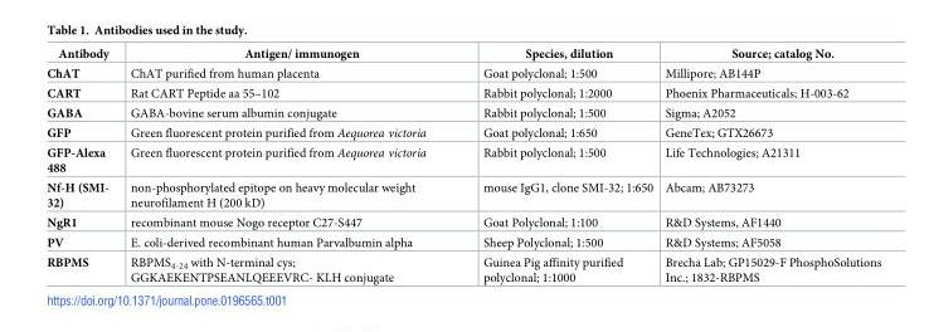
<table><thead><tr><td>Antibody</td><td>Antigen/ immunogen</td><td>Species, dilution</td><td>Source; catalog No.</td></tr></thead><tbody><tr><td>ChAT</td><td>ChAT purified from human placenta</td><td>Goat polyclonal; 1:500</td><td>Millipore; AB144P</td></tr><tr><td>CART</td><td>Rat CART Peptide aa 55–102</td><td>Rabbit polyclonal; 1:2000</td><td>Phoenix Pharmaceuticals; H-003-62</td></tr><tr><td>GABA</td><td>GABA-bovine serum albumin conjugate</td><td>Rabbit polyclonal; 1:500</td><td>Sigma; A2052</td></tr><tr><td>GFP</td><td>Green fluorescent protein purified from Aequorea victoria</td><td>Goat polyclonal; 1:650</td><td>GeneTex; GTX26673</td></tr><tr><td>GFP-Alexa 488</td><td>Green fluorescent protein purified from Aequorea victoria</td><td>Rabbit polyclonal; 1:500</td><td>Life Technologies; A21311</td></tr><tr><td>Nf-H (SMI- 32)</td><td>non-phosphorylated epitope on heavy molecular weight neurofilament H (200 kD)</td><td>mouse IgG1, clone SMI-32; 1:650</td><td>Abcam; AB73273</td></tr><tr><td>NgR1</td><td>recombinant mouse Nogo receptor C27-S447</td><td>Goat Polyclonal; 1:100</td><td>R&amp;D Systems, AF1440</td></tr><tr><td>PV</td><td>E. coli-derived recombinant human Parvalbumin alpha</td><td>Sheep Polyclonal; 1:500</td><td>R&amp;D Systems; AF5058</td></tr><tr><td>RBPMS</td><td>RBPMS<sub>4-24</sub> with N-terminal cys; GGKAEKENTPSEANLQEEEVRC- KLH conjugate</td><td>Guinea Pig affinity purified polyclonal; 1:1000</td><td>Brecha Lab; GP15029-F PhosphoSolutions Inc.; 1832-RBPMS</td></tr></tbody></table>